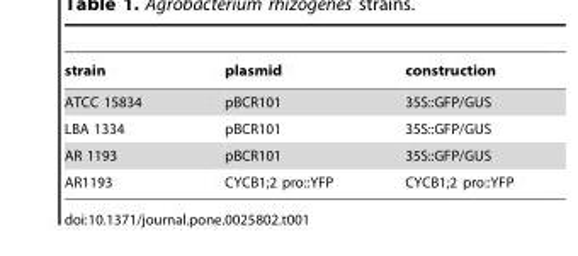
<table><thead><tr><td>strain</td><td>plasmid</td><td>construction</td></tr></thead><tbody><tr><td>ATCC 15834</td><td>pBCR101</td><td>35S::GFP/GUS</td></tr><tr><td>LBA 1334</td><td>pBCR101</td><td>35S::GFP/GUS</td></tr><tr><td>AR 1193</td><td>pBCR101</td><td>35S::GFP/GUS</td></tr><tr><td>AR1193</td><td>CYCB1;2 pro::YFP</td><td>CYCB1;2 pro::YFP</td></tr></tbody></table>